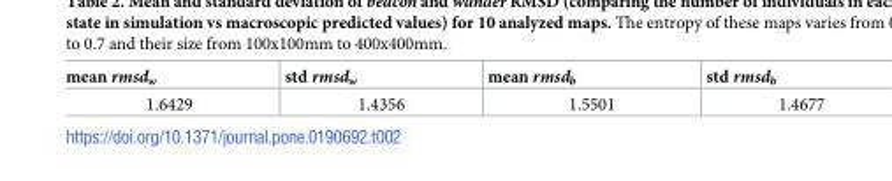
<table><thead><tr><td>mean rmsd<sub>w</sub></td><td>std rmsd<sub>w</sub></td><td>mean rmsd<sub>b</sub></td><td>std rmsd<sub>b</sub></td></tr></thead><tbody><tr><td>1.6429</td><td>1.4356</td><td>1.5501</td><td>1.4677</td></tr></tbody></table>